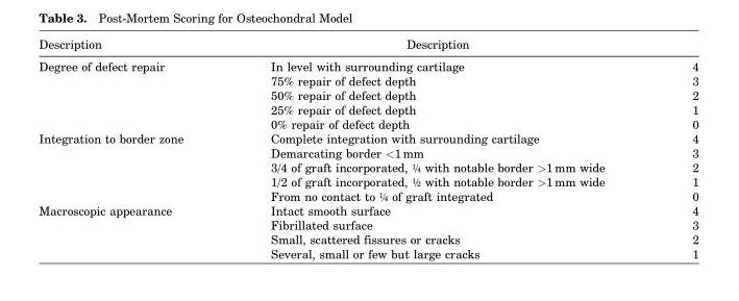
<table><thead><tr><td>Description</td><td>Description</td><td></td></tr></thead><tbody><tr><td rowspan="5">Degree of defect repair</td><td>In level with surrounding cartilage</td><td>4</td></tr><tr><td>75% repair of defect depth</td><td>3</td></tr><tr><td>50% repair of defect depth</td><td>2</td></tr><tr><td>25% repair of defect depth</td><td>1</td></tr><tr><td>0% repair of defect depth</td><td>0</td></tr><tr><td rowspan="5">Integration to border zone</td><td>Complete integration with surrounding cartilage</td><td>4</td></tr><tr><td>Demarcating border &lt;1 mm</td><td>3</td></tr><tr><td>3/4 of graft incorporated, 1 / 4 with notable border &gt;1 mm wide</td><td>2</td></tr><tr><td>1/2 of graft incorporated, 1 / 2 with notable border &gt;1 mm wide</td><td>1</td></tr><tr><td>From no contact to 1 / 4 of graft integrated</td><td>0</td></tr><tr><td rowspan="4">Macroscopic appearance</td><td>Intact smooth surface</td><td>4</td></tr><tr><td>Fibrillated surface</td><td>3</td></tr><tr><td>Small, scattered fissures or cracks</td><td>2</td></tr><tr><td>Several, small or few but large cracks</td><td>1</td></tr></tbody></table>